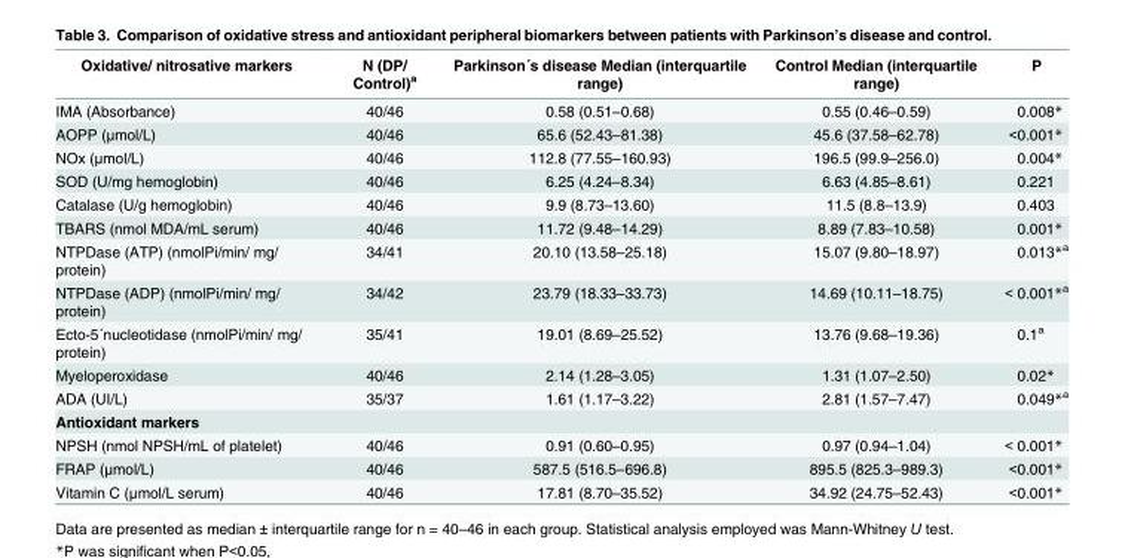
<table><thead><tr><td>Oxidative/ nitrosative markers</td><td>N (DP/ Control)<sup>a</sup></td><td>Parkinson´s disease Median (interquartile range)</td><td>Control Median (interquartile range)</td><td>P</td></tr></thead><tbody><tr><td>IMA (Absorbance)</td><td>40/46</td><td>0.58 (0.51–0.68)</td><td>0.55 (0.46–0.59)</td><td>0.008*</td></tr><tr><td>AOPP (μmol/L)</td><td>40/46</td><td>65.6 (52.43–81.38)</td><td>45.6 (37.58–62.78)</td><td>&lt;0.001*</td></tr><tr><td>NOx (μmol/L)</td><td>40/46</td><td>112.8 (77.55–160.93)</td><td>196.5 (99.9–256.0)</td><td>0.004*</td></tr><tr><td>SOD (U/mg hemoglobin)</td><td>40/46</td><td>6.25 (4.24–8.34)</td><td>6.63 (4.85–8.61)</td><td>0.221</td></tr><tr><td>Catalase (U/g hemoglobin)</td><td>40/46</td><td>9.9 (8.73–13.60)</td><td>11.5 (8.8–13.9)</td><td>0.403</td></tr><tr><td>TBARS (nmol MDA/mL serum)</td><td>40/46</td><td>11.72 (9.48–14.29)</td><td>8.89 (7.83–10.58)</td><td>0.001*</td></tr><tr><td>NTPDase (ATP) (nmolPi/min/ mg/ protein)</td><td>34/41</td><td>20.10 (13.58–25.18)</td><td>15.07 (9.80–18.97)</td><td>0.013*<sup>a</sup></td></tr><tr><td>NTPDase (ADP) (nmolPi/min/ mg/ protein)</td><td>34/42</td><td>23.79 (18.33–33.73)</td><td>14.69 (10.11–18.75)</td><td>&lt; 0.001*<sup>a</sup></td></tr><tr><td>Ecto-5´nucleotidase (nmolPi/min/ mg/ protein)</td><td>35/41</td><td>19.01 (8.69–25.52)</td><td>13.76 (9.68–19.36)</td><td>0.1<sup>a</sup></td></tr><tr><td>Myeloperoxidase</td><td>40/46</td><td>2.14 (1.28–3.05)</td><td>1.31 (1.07–2.50)</td><td>0.02*</td></tr><tr><td>ADA (UI/L)</td><td>35/37</td><td>1.61 (1.17–3.22)</td><td>2.81 (1.57–7.47)</td><td>0.049*<sup>a</sup></td></tr><tr><td colspan="5">Antioxidant markers</td></tr><tr><td>NPSH (nmol NPSH/mL of platelet)</td><td>40/46</td><td>0.91 (0.60–0.95)</td><td>0.97 (0.94–1.04)</td><td>&lt; 0.001*</td></tr><tr><td>FRAP (μmol/L)</td><td>40/46</td><td>587.5 (516.5–696.8)</td><td>895.5 (825.3–989.3)</td><td>&lt;0.001*</td></tr><tr><td>Vitamin C (μmol/L serum)</td><td>40/46</td><td>17.81 (8.70–35.52)</td><td>34.92 (24.75–52.43)</td><td>&lt;0.001*</td></tr></tbody></table>